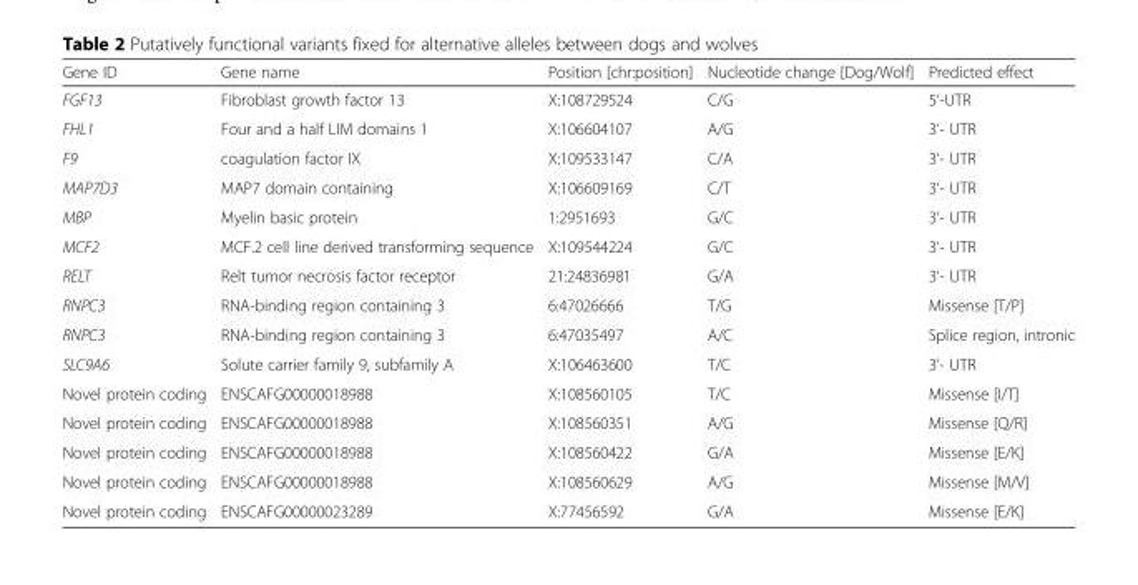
<table><thead><tr><td>Gene ID</td><td>Gene name</td><td>Position [chr:position]</td><td>Nucleotide change [Dog/Wolf]</td><td>Predicted effect</td></tr></thead><tbody><tr><td>FGF13</td><td>Fibroblast growth factor 13</td><td>X:108729524</td><td>C/G</td><td>5‘-UTR</td></tr><tr><td>FHL1</td><td>Four and a half LIM domains 1</td><td>X:106604107</td><td>A/G</td><td>3‘- UTR</td></tr><tr><td>F9</td><td>coagulation factor IX</td><td>X:109533147</td><td>C/A</td><td>3‘- UTR</td></tr><tr><td>MAP7D3</td><td>MAP7 domain containing</td><td>X:106609169</td><td>C/T</td><td>3‘- UTR</td></tr><tr><td>MBP</td><td>Myelin basic protein</td><td>1:2951693</td><td>G/C</td><td>3‘- UTR</td></tr><tr><td>MCF2</td><td>MCF.2 cell line derived transforming sequence</td><td>X:109544224</td><td>G/C</td><td>3‘- UTR</td></tr><tr><td>RELT</td><td>Relt tumor necrosis factor receptor</td><td>21:24836981</td><td>G/A</td><td>3‘- UTR</td></tr><tr><td>RNPC3</td><td>RNA-binding region containing 3</td><td>6:47026666</td><td>T/G</td><td>Missense [T/P]</td></tr><tr><td>RNPC3</td><td>RNA-binding region containing 3</td><td>6:47035497</td><td>A/C</td><td>Splice region, intronic</td></tr><tr><td>SLC9A6</td><td>Solute carrier family 9, subfamily A</td><td>X:106463600</td><td>T/C</td><td>3‘- UTR</td></tr><tr><td>Novel protein coding</td><td>ENSCAFG00000018988</td><td>X:108560105</td><td>T/C</td><td>Missense [I/T]</td></tr><tr><td>Novel protein coding</td><td>ENSCAFG00000018988</td><td>X:108560351</td><td>A/G</td><td>Missense [Q/R]</td></tr><tr><td>Novel protein coding</td><td>ENSCAFG00000018988</td><td>X:108560422</td><td>G/A</td><td>Missense [E/K]</td></tr><tr><td>Novel protein coding</td><td>ENSCAFG00000018988</td><td>X:108560629</td><td>A/G</td><td>Missense [M/V]</td></tr><tr><td>Novel protein coding</td><td>ENSCAFG00000023289</td><td>X:77456592</td><td>G/A</td><td>Missense [E/K]</td></tr></tbody></table>